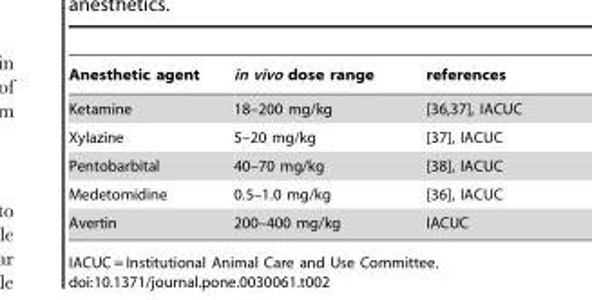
<table><thead><tr><td>Anesthetic agent</td><td>in vivo dose range</td><td>references</td></tr></thead><tbody><tr><td>Ketamine</td><td>18–200 mg/kg</td><td>[36,37], IACUC</td></tr><tr><td>Xylazine</td><td>5–20 mg/kg</td><td>[37], IACUC</td></tr><tr><td>Pentobarbital</td><td>40–70 mg/kg</td><td>[38], IACUC</td></tr><tr><td>Medetomidine</td><td>0.5–1.0 mg/kg</td><td>[36], IACUC</td></tr><tr><td>Avertin</td><td>200–400 mg/kg</td><td>IACUC</td></tr></tbody></table>